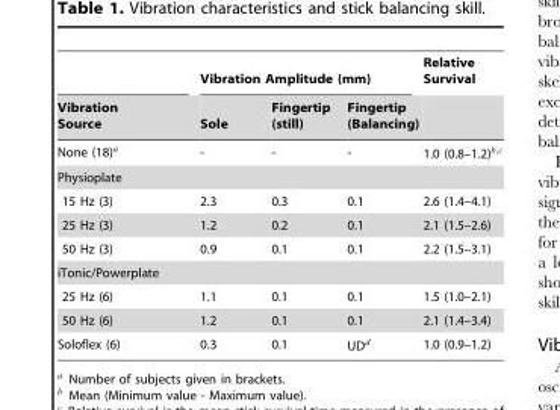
<table><thead><tr><td rowspan="2">Vibration Source</td><td colspan="3">Vibration Amplitude (mm)</td><td rowspan="2">Relative Survival</td></tr><tr><td>Sole</td><td>Fingertip (still)</td><td>Fingertip (Balancing)</td></tr></thead><tbody><tr><td>None (18)a</td><td>-</td><td>-</td><td>-</td><td>1.0 (0.8–1.2)b,c</td></tr><tr><td colspan="5">Physioplate</td></tr><tr><td>15 Hz (3)</td><td>2.3</td><td>0.3</td><td>0.1</td><td>2.6 (1.4–4.1)</td></tr><tr><td>25 Hz (3)</td><td>1.2</td><td>0.2</td><td>0.1</td><td>2.1 (1.5–2.6)</td></tr><tr><td>50 Hz (3)</td><td>0.9</td><td>0.1</td><td>0.1</td><td>2.2 (1.5–3.1)</td></tr><tr><td colspan="5">iTonic/Powerplate</td></tr><tr><td>25 Hz (6)</td><td>1.1</td><td>0.1</td><td>0.1</td><td>1.5 (1.0–2.1)</td></tr><tr><td>50 Hz (6)</td><td>1.2</td><td>0.1</td><td>0.1</td><td>2.1 (1.4–3.4)</td></tr><tr><td>Soloflex (6)</td><td>0.3</td><td>0.1</td><td>UDd</td><td>1.0 (0.9–1.2)</td></tr></tbody></table>